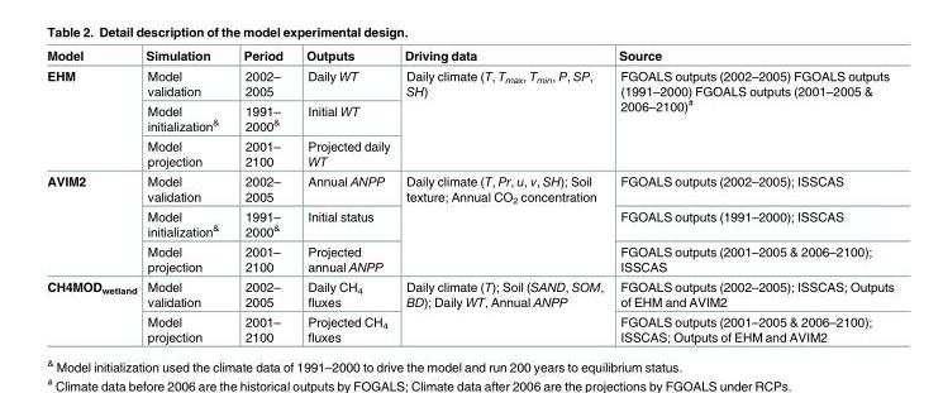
<table><thead><tr><td>Model</td><td>Simulation</td><td>Period</td><td>Outputs</td><td>Driving data</td><td>Source</td></tr></thead><tbody><tr><td rowspan="3">EHM</td><td>Model validation</td><td>2002– 2005</td><td>Daily WT</td><td rowspan="3">Daily climate (T, T<sub>max</sub>, T<sub>min</sub>, P, SP, SH)</td><td rowspan="3">FGOALS outputs (2002–2005) FGOALS outputs (1991–2000) FGOALS outputs (2001–2005 &amp; 2006–2100)<sup>#</sup></td></tr><tr><td>Model initialization<sup>&amp;</sup></td><td>1991– 2000<sup>&amp;</sup></td><td>Initial WT</td></tr><tr><td>Model projection</td><td>2001– 2100</td><td>Projected daily WT</td></tr><tr><td rowspan="3">AVIM2</td><td>Model validation</td><td>2002– 2005</td><td>Annual ANPP</td><td rowspan="3">Daily climate (T, Pr, u, v, SH); Soil texture; Annual CO<sub>2</sub> concentration</td><td>FGOALS outputs (2002–2005); ISSCAS</td></tr><tr><td>Model initialization<sup>&amp;</sup></td><td>1991– 2000<sup>&amp;</sup></td><td>Initial status</td><td>FGOALS outputs (1991–2000); ISSCAS</td></tr><tr><td>Model projection</td><td>2001– 2100</td><td>Projected annual ANPP</td><td>FGOALS outputs (2001–2005 &amp; 2006–2100); ISSCAS</td></tr><tr><td rowspan="2">CH4MOD<sub>wetland</sub></td><td>Model validation</td><td>2002– 2005</td><td>Daily CH<sub>4</sub> fluxes</td><td rowspan="2">Daily climate (T); Soil (SAND, SOM, BD); Daily WT, Annual ANPP</td><td>FGOALS outputs (2002–2005); ISSCAS; Outputs of EHM and AVIM2</td></tr><tr><td>Model projection</td><td>2001– 2100</td><td>Projected CH<sub>4</sub> fluxes</td><td>FGOALS outputs (2001–2005 &amp; 2006–2100); ISSCAS; Outputs of EHM and AVIM2</td></tr></tbody></table>